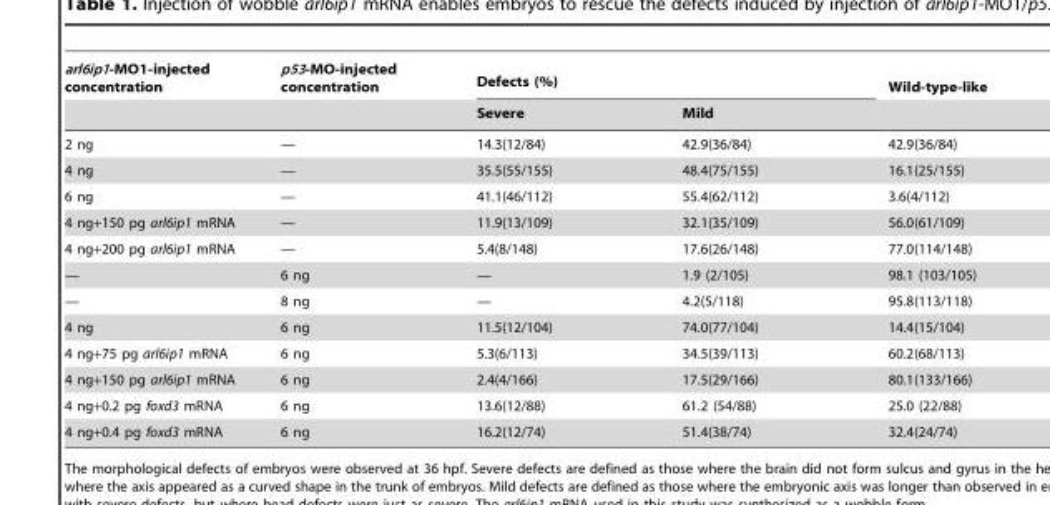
<table><thead><tr><td rowspan="2">arl6ip1-MO1-injected concentration</td><td rowspan="2">p53-MO-injected concentration</td><td colspan="2">Defects (%)</td><td rowspan="2">Wild-type-like</td></tr><tr><td>Severe</td><td>Mild</td></tr></thead><tbody><tr><td>2 ng</td><td>—</td><td>14.3(12/84)</td><td>42.9(36/84)</td><td>42.9(36/84)</td></tr><tr><td>4 ng</td><td>—</td><td>35.5(55/155)</td><td>48.4(75/155)</td><td>16.1(25/155)</td></tr><tr><td>6 ng</td><td>—</td><td>41.1(46/112)</td><td>55.4(62/112)</td><td>3.6(4/112)</td></tr><tr><td>4 ng+150 pg arl6ip1 mRNA</td><td>—</td><td>11.9(13/109)</td><td>32.1(35/109)</td><td>56.0(61/109)</td></tr><tr><td>4 ng+200 pg arl6ip1 mRNA</td><td>—</td><td>5.4(8/148)</td><td>17.6(26/148)</td><td>77.0(114/148)</td></tr><tr><td>—</td><td>6 ng</td><td>—</td><td>1.9 (2/105)</td><td>98.1 (103/105)</td></tr><tr><td>—</td><td>8 ng</td><td>—</td><td>4.2(5/118)</td><td>95.8(113/118)</td></tr><tr><td>4 ng</td><td>6 ng</td><td>11.5(12/104)</td><td>74.0(77/104)</td><td>14.4(15/104)</td></tr><tr><td>4 ng+75 pg arl6ip1 mRNA</td><td>6 ng</td><td>5.3(6/113)</td><td>34.5(39/113)</td><td>60.2(68/113)</td></tr><tr><td>4 ng+150 pg arl6ip1 mRNA</td><td>6 ng</td><td>2.4(4/166)</td><td>17.5(29/166)</td><td>80.1(133/166)</td></tr><tr><td>4 ng+0.2 pg foxd3 mRNA</td><td>6 ng</td><td>13.6(12/88)</td><td>61.2 (54/88)</td><td>25.0 (22/88)</td></tr><tr><td>4 ng+0.4 pg foxd3 mRNA</td><td>6 ng</td><td>16.2(12/74)</td><td>51.4(38/74)</td><td>32.4(24/74)</td></tr></tbody></table>